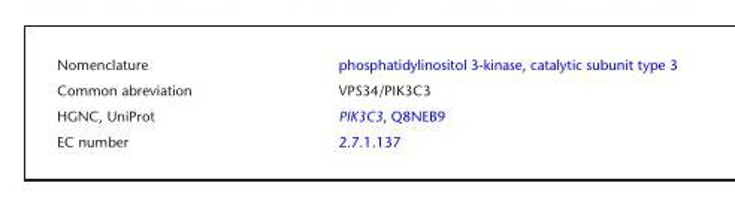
<table><tbody><tr><td>Nomenclature</td><td>phosphatidylinositol 3-kinase, catalytic subunit type 3</td></tr><tr><td>Common abreviation</td><td>VPS34/PIK3C3</td></tr><tr><td>HGNC, UniProt</td><td>PIK3C3, Q8NEB9</td></tr><tr><td>EC number</td><td>2.7.1.137</td></tr></tbody></table>